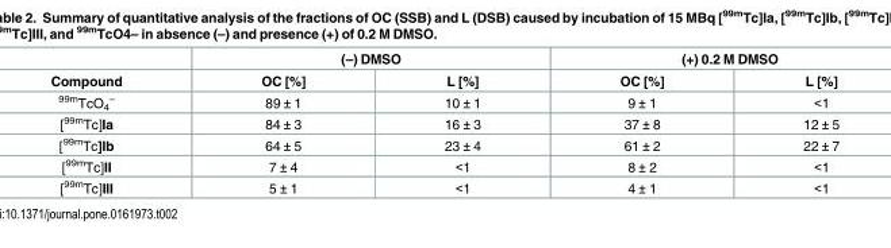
<table><thead><tr><td rowspan="2">Compound</td><td colspan="2">(–) DMSO</td><td colspan="2">(+) 0.2 M DMSO</td></tr><tr><td>OC [%]</td><td>L [%]</td><td>OC [%]</td><td>L [%]</td></tr></thead><tbody><tr><td><sup>99m</sup>TcO<sub>4</sub> <sup>–</sup></td><td>89 ± 1</td><td>10 ± 1</td><td>9 ± 1</td><td>&lt;1</td></tr><tr><td>[<sup>99m</sup>Tc]Ia</td><td>84 ± 3</td><td>16 ± 3</td><td>37 ± 8</td><td>12 ± 5</td></tr><tr><td>[<sup>99m</sup>Tc]Ib</td><td>64 ± 5</td><td>23 ± 4</td><td>61 ± 2</td><td>22 ± 7</td></tr><tr><td>[<sup>99m</sup>Tc]II</td><td>7 ± 4</td><td>&lt;1</td><td>8 ± 2</td><td>&lt;1</td></tr><tr><td>[<sup>99m</sup>Tc]III</td><td>5 ± 1</td><td>&lt;1</td><td>4 ± 1</td><td>&lt;1</td></tr></tbody></table>